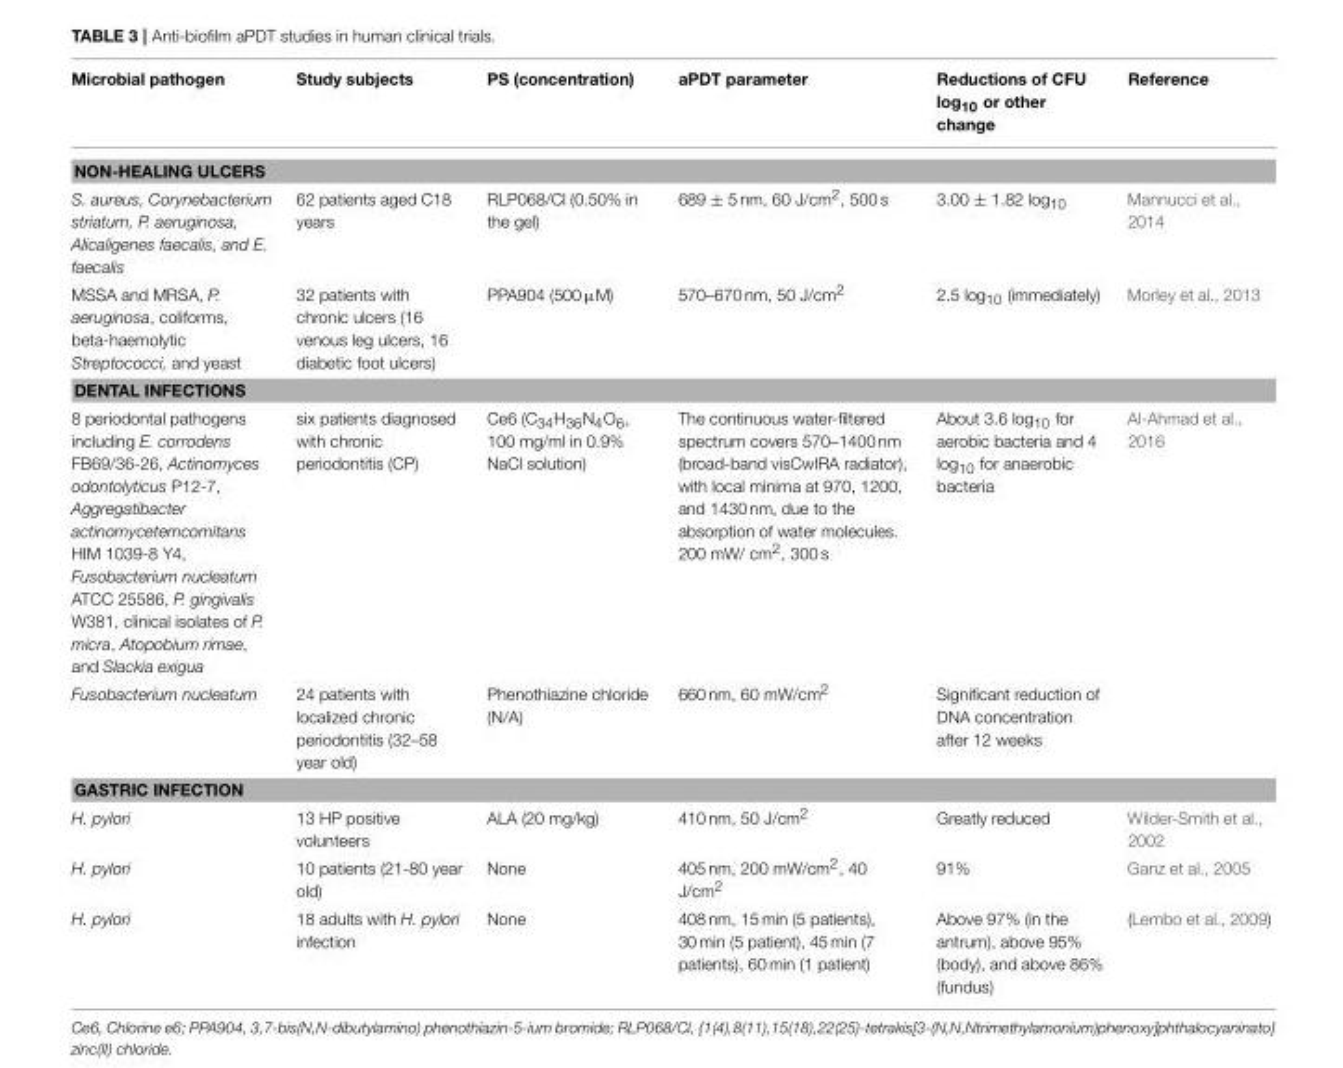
<table><thead><tr><td>Microbial pathogen</td><td>Study subjects</td><td>PS (concentration)</td><td>aPDT parameter</td><td>Reductions of CFU log<sub>10</sub> or other change</td><td>Reference</td></tr></thead><tbody><tr><td colspan="6">NON-HEALING ULCERS</td></tr><tr><td>S. aureus, Corynebacterium striatum, P. aeruginosa, Alicaligenes faecalis, and E. faecalis</td><td>62 patients aged C18 years</td><td>RLP068/Cl (0.50% in the gel)</td><td>689 ± 5 nm, 60 J/cm<sup>2</sup>, 500 s</td><td>3.00 ± 1.82 log<sub>10</sub></td><td>Mannucci et al., 2014</td></tr><tr><td>MSSA and MRSA, P. aeruginosa, coliforms, beta-haemolytic Streptococci, and yeast</td><td>32 patients with chronic ulcers (16 venous leg ulcers, 16 diabetic foot ulcers)</td><td>PPA904 (500 µM)</td><td>570–670 nm, 50 J/cm<sup>2</sup></td><td>2.5 log<sub>10</sub> (immediately)</td><td>Morley et al., 2013</td></tr><tr><td colspan="6">DENTAL INFECTIONS</td></tr><tr><td>8 periodontal pathogens including E. corrodens FB69/36-26, Actinomyces odontolyticus P12-7, Aggregatibacter actinomycetemcomitans HIM 1039-8 Y4, Fusobacterium nucleatum ATCC 25586, P. gingivalis W381, clinical isolates of P. micra, Atopobium rimae, and Slackia exigua</td><td>six patients diagnosed with chronic periodontitis (CP)</td><td>Ce6 (C<sub>34</sub>H<sub>36</sub>N<sub>4</sub>O<sub>6</sub>, 100 mg/ml in 0.9% NaCl solution)</td><td>The continuous water-filtered spectrum covers 570–1400 nm (broad-band visCwIRA radiator), with local minima at 970, 1200, and 1430 nm, due to the absorption of water molecules. 200 mW/ cm<sup>2</sup>, 300 s</td><td>About 3.6 log<sub>10</sub> for aerobic bacteria and 4 log<sub>10</sub> for anaerobic bacteria</td><td>Al-Ahmad et al., 2016</td></tr><tr><td>Fusobacterium nucleatum</td><td>24 patients with localized chronic periodontitis (32–58 year old)</td><td>Phenothiazine chloride (N/A)</td><td>660 nm, 60 mW/cm<sup>2</sup></td><td>Significant reduction of DNA concentration after 12 weeks</td><td></td></tr><tr><td colspan="6">GASTRIC INFECTION</td></tr><tr><td>H. pylori</td><td>13 HP positive volunteers</td><td>ALA (20 mg/kg)</td><td>410 nm, 50 J/cm<sup>2</sup></td><td>Greatly reduced</td><td>Wilder-Smith et al., 2002</td></tr><tr><td>H. pylori</td><td>10 patients (21-80 year old)</td><td>None</td><td>405 nm, 200 mW/cm<sup>2</sup>, 40 J/cm<sup>2</sup></td><td>91%</td><td>Ganz et al., 2005</td></tr><tr><td>H. pylori</td><td>18 adults with H. pylori infection</td><td>None</td><td>408 nm, 15 min (5 patients), 30 min (5 patient), 45 min (7 patients), 60 min (1 patient)</td><td>Above 97% (in the antrum), above 95% (body), and above 86% (fundus)</td><td>(Lembo et al., 2009)</td></tr></tbody></table>